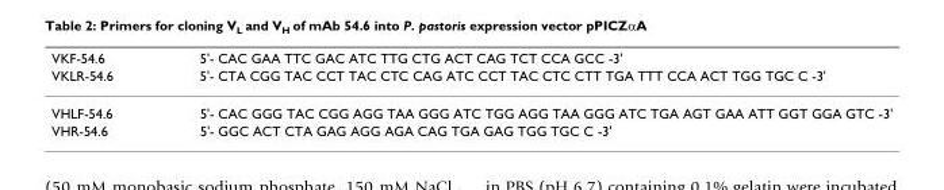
<table><thead><tr><td rowspan="2">VKF-54.6 VKLR-54.6</td><td rowspan="2">5&#x27;- CAC GAA TTC GAC ATC TTG CTG ACT CAG TCT CCA GCC -3&#x27; 5&#x27;- CTA CGG TAC CCT TAC CTC CAG ATC CCT TAC CTC CTT TGA TTT CCA ACT TGG TGC C -3&#x27;</td></tr><tr></tr></thead><tbody><tr><td>VHLF-54.6</td><td>5&#x27;- CAC GGG TAC CGG AGG TAA GGG ATC TGG AGG TAA GGG ATC TGA AGT GAA ATT GGT GGA GTC -3&#x27;</td></tr><tr><td>VHR-54.6</td><td>5&#x27;- GGC ACT CTA GAG AGG AGA CAG TGA GAG TGG TGC C -3&#x27;</td></tr></tbody></table>